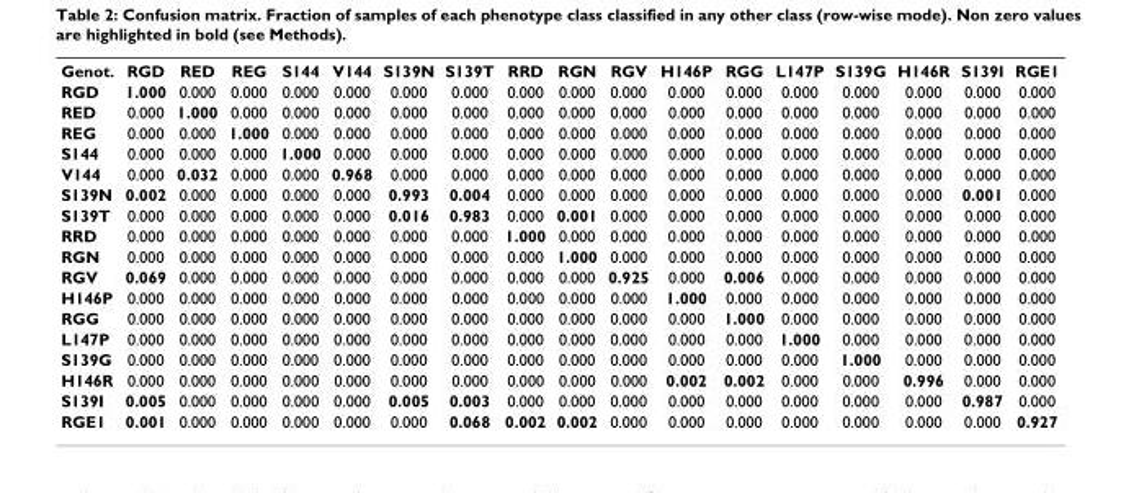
<table><tbody><tr><td>Genot.</td><td>RGD</td><td>RED</td><td>REG</td><td>S144</td><td>V144</td><td>S139N</td><td>S139T</td><td>RRD</td><td>RGN</td><td>RGV</td><td>H146P</td><td>RGG</td><td>L147P</td><td>S139G</td><td>H146R</td><td>S139I</td><td>RGE1</td></tr><tr><td>RGD</td><td>1.000</td><td>0.000</td><td>0.000</td><td>0.000</td><td>0.000</td><td>0.000</td><td>0.000</td><td>0.000</td><td>0.000</td><td>0.000</td><td>0.000</td><td>0.000</td><td>0.000</td><td>0.000</td><td>0.000</td><td>0.000</td><td>0.000</td></tr><tr><td>RED</td><td>0.000</td><td>1.000</td><td>0.000</td><td>0.000</td><td>0.000</td><td>0.000</td><td>0.000</td><td>0.000</td><td>0.000</td><td>0.000</td><td>0.000</td><td>0.000</td><td>0.000</td><td>0.000</td><td>0.000</td><td>0.000</td><td>0.000</td></tr><tr><td>REG</td><td>0.000</td><td>0.000</td><td>1.000</td><td>0.000</td><td>0.000</td><td>0.000</td><td>0.000</td><td>0.000</td><td>0.000</td><td>0.000</td><td>0.000</td><td>0.000</td><td>0.000</td><td>0.000</td><td>0.000</td><td>0.000</td><td>0.000</td></tr><tr><td>S144</td><td>0.000</td><td>0.000</td><td>0.000</td><td>1.000</td><td>0.000</td><td>0.000</td><td>0.000</td><td>0.000</td><td>0.000</td><td>0.000</td><td>0.000</td><td>0.000</td><td>0.000</td><td>0.000</td><td>0.000</td><td>0.000</td><td>0.000</td></tr><tr><td>V144</td><td>0.000</td><td>0.032</td><td>0.000</td><td>0.000</td><td>0.968</td><td>0.000</td><td>0.000</td><td>0.000</td><td>0.000</td><td>0.000</td><td>0.000</td><td>0.000</td><td>0.000</td><td>0.000</td><td>0.000</td><td>0.000</td><td>0.000</td></tr><tr><td>S139N</td><td>0.002</td><td>0.000</td><td>0.000</td><td>0.000</td><td>0.000</td><td>0.993</td><td>0.004</td><td>0.000</td><td>0.000</td><td>0.000</td><td>0.000</td><td>0.000</td><td>0.000</td><td>0.000</td><td>0.000</td><td>0.001</td><td>0.000</td></tr><tr><td>S139T</td><td>0.000</td><td>0.000</td><td>0.000</td><td>0.000</td><td>0.000</td><td>0.016</td><td>0.983</td><td>0.000</td><td>0.001</td><td>0.000</td><td>0.000</td><td>0.000</td><td>0.000</td><td>0.000</td><td>0.000</td><td>0.000</td><td>0.000</td></tr><tr><td>RRD</td><td>0.000</td><td>0.000</td><td>0.000</td><td>0.000</td><td>0.000</td><td>0.000</td><td>0.000</td><td>1.000</td><td>0.000</td><td>0.000</td><td>0.000</td><td>0.000</td><td>0.000</td><td>0.000</td><td>0.000</td><td>0.000</td><td>0.000</td></tr><tr><td>RGN</td><td>0.000</td><td>0.000</td><td>0.000</td><td>0.000</td><td>0.000</td><td>0.000</td><td>0.000</td><td>0.000</td><td>1.000</td><td>0.000</td><td>0.000</td><td>0.000</td><td>0.000</td><td>0.000</td><td>0.000</td><td>0.000</td><td>0.000</td></tr><tr><td>RGV</td><td>0.069</td><td>0.000</td><td>0.000</td><td>0.000</td><td>0.000</td><td>0.000</td><td>0.000</td><td>0.000</td><td>0.000</td><td>0.925</td><td>0.000</td><td>0.006</td><td>0.000</td><td>0.000</td><td>0.000</td><td>0.000</td><td>0.000</td></tr><tr><td>H146P</td><td>0.000</td><td>0.000</td><td>0.000</td><td>0.000</td><td>0.000</td><td>0.000</td><td>0.000</td><td>0.000</td><td>0.000</td><td>0.000</td><td>1.000</td><td>0.000</td><td>0.000</td><td>0.000</td><td>0.000</td><td>0.000</td><td>0.000</td></tr><tr><td>RGG</td><td>0.000</td><td>0.000</td><td>0.000</td><td>0.000</td><td>0.000</td><td>0.000</td><td>0.000</td><td>0.000</td><td>0.000</td><td>0.000</td><td>0.000</td><td>1.000</td><td>0.000</td><td>0.000</td><td>0.000</td><td>0.000</td><td>0.000</td></tr><tr><td>L147P</td><td>0.000</td><td>0.000</td><td>0.000</td><td>0.000</td><td>0.000</td><td>0.000</td><td>0.000</td><td>0.000</td><td>0.000</td><td>0.000</td><td>0.000</td><td>0.000</td><td>1.000</td><td>0.000</td><td>0.000</td><td>0.000</td><td>0.000</td></tr><tr><td>S139G</td><td>0.000</td><td>0.000</td><td>0.000</td><td>0.000</td><td>0.000</td><td>0.000</td><td>0.000</td><td>0.000</td><td>0.000</td><td>0.000</td><td>0.000</td><td>0.000</td><td>0.000</td><td>1.000</td><td>0.000</td><td>0.000</td><td>0.000</td></tr><tr><td>H146R</td><td>0.000</td><td>0.000</td><td>0.000</td><td>0.000</td><td>0.000</td><td>0.000</td><td>0.000</td><td>0.000</td><td>0.000</td><td>0.000</td><td>0.002</td><td>0.002</td><td>0.000</td><td>0.000</td><td>0.996</td><td>0.000</td><td>0.000</td></tr><tr><td>S139I</td><td>0.005</td><td>0.000</td><td>0.000</td><td>0.000</td><td>0.000</td><td>0.005</td><td>0.003</td><td>0.000</td><td>0.000</td><td>0.000</td><td>0.000</td><td>0.000</td><td>0.000</td><td>0.000</td><td>0.000</td><td>0.987</td><td>0.000</td></tr><tr><td>RGE1</td><td>0.001</td><td>0.000</td><td>0.000</td><td>0.000</td><td>0.000</td><td>0.000</td><td>0.068</td><td>0.002</td><td>0.002</td><td>0.000</td><td>0.000</td><td>0.000</td><td>0.000</td><td>0.000</td><td>0.000</td><td>0.000</td><td>0.927</td></tr></tbody></table>